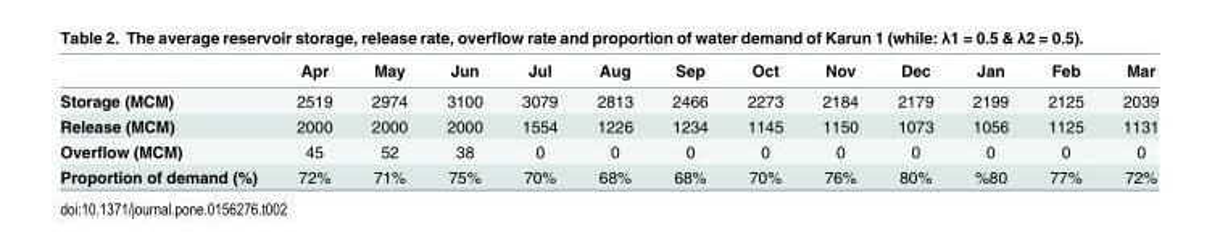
<table><thead><tr><td></td><td>Apr</td><td>May</td><td>Jun</td><td>Jul</td><td>Aug</td><td>Sep</td><td>Oct</td><td>Nov</td><td>Dec</td><td>Jan</td><td>Feb</td><td>Mar</td></tr></thead><tbody><tr><td>Storage (MCM)</td><td>2519</td><td>2974</td><td>3100</td><td>3079</td><td>2813</td><td>2466</td><td>2273</td><td>2184</td><td>2179</td><td>2199</td><td>2125</td><td>2039</td></tr><tr><td>Release (MCM)</td><td>2000</td><td>2000</td><td>2000</td><td>1554</td><td>1226</td><td>1234</td><td>1145</td><td>1150</td><td>1073</td><td>1056</td><td>1125</td><td>1131</td></tr><tr><td>Overflow (MCM)</td><td>45</td><td>52</td><td>38</td><td>0</td><td>0</td><td>0</td><td>0</td><td>0</td><td>0</td><td>0</td><td>0</td><td>0</td></tr><tr><td>Proportion of demand (%)</td><td>72%</td><td>71%</td><td>75%</td><td>70%</td><td>68%</td><td>68%</td><td>70%</td><td>76%</td><td>80%</td><td>%80</td><td>77%</td><td>72%</td></tr></tbody></table>